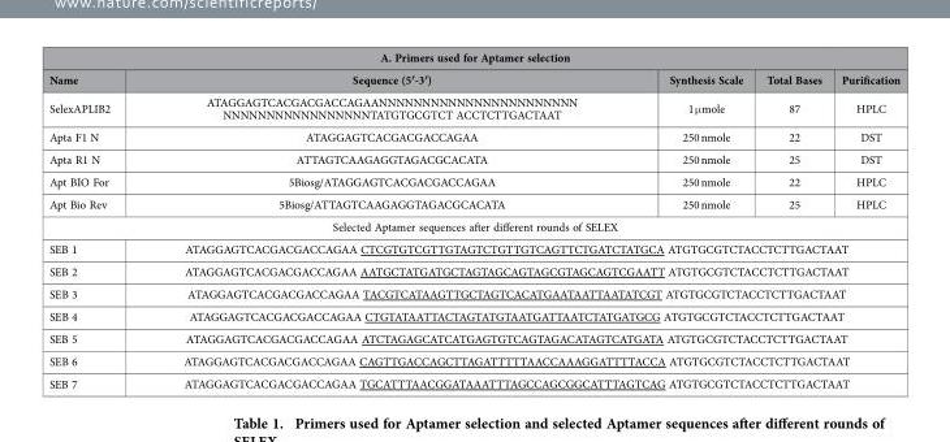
<table><thead><tr><td colspan="5">A. Primers used for Aptamer selection</td></tr><tr><td>Name</td><td>Sequence (5′-3′)</td><td>Synthesis Scale</td><td>Total Bases</td><td>Purification</td></tr></thead><tbody><tr><td>SelexAPLIB2</td><td>ATAGGAGTCACGACGACCAGAANNNNNNNNNNNNNNNNNNNNNNN NNNNNNNNNNNNNNNNNTATGTGCGTCT ACCTCTTGACTAAT</td><td>1 μ mole</td><td>87</td><td>HPLC</td></tr><tr><td>Apta F1 N</td><td>ATAGGAGTCACGACGACCAGAA</td><td>250 nmole</td><td>22</td><td>DST</td></tr><tr><td>Apta R1 N</td><td>ATTAGTCAAGAGGTAGACGCACATA</td><td>250 nmole</td><td>25</td><td>DST</td></tr><tr><td>Apt BIO For</td><td>5Biosg/ATAGGAGTCACGACGACCAGAA</td><td>250 nmole</td><td>22</td><td>HPLC</td></tr><tr><td>Apt Bio Rev</td><td>5Biosg/ATTAGTCAAGAGGTAGACGCACATA</td><td>250 nmole</td><td>25</td><td>HPLC</td></tr><tr><td colspan="5">Selected Aptamer sequences after different rounds of SELEX</td></tr><tr><td>SEB 1</td><td colspan="4">ATAGGAGTCACGACGACCAGAA CTCGTGTCGTTGTAGTCTGTTGTCAGTTCTGATCTATGCA ATGTGCGTCTACCTCTTGACTAAT</td></tr><tr><td>SEB 2</td><td colspan="4">ATAGGAGTCACGACGACCAGAA AATGCTATGATGCTAGTAGCAGTAGCGTAGCAGTCGAATT ATGTGCGTCTACCTCTTGACTAAT</td></tr><tr><td>SEB 3</td><td colspan="4">ATAGGAGTCACGACGACCAGAA TACGTCATAAGTTGCTAGTCACATGAATAATTAATATCGT ATGTGCGTCTACCTCTTGACTAAT</td></tr><tr><td>SEB 4</td><td colspan="4">ATAGGAGTCACGACGACCAGAA CTGTATAATTACTAGTATGTAATGATTAATCTATGATGCG ATGTGCGTCTACCTCTTGACTAAT</td></tr><tr><td>SEB 5</td><td colspan="4">ATAGGAGTCACGACGACCAGAA ATCTAGAGCATCATGAGTGTCAGTAGACATAGTCATGATA ATGTGCGTCTACCTCTTGACTAAT</td></tr><tr><td>SEB 6</td><td colspan="4">ATAGGAGTCACGACGACCAGAA CAGTTGACCAGCTTAGATTTTTAACCAAAGGATTTTACCA ATGTGCGTCTACCTCTTGACTAAT</td></tr><tr><td>SEB 7</td><td colspan="4">ATAGGAGTCACGACGACCAGAA TGCATTTAACGGATAAATTTAGCCAGCGGCATTTAGTCAG ATGTGCGTCTACCTCTTGACTAAT</td></tr></tbody></table>